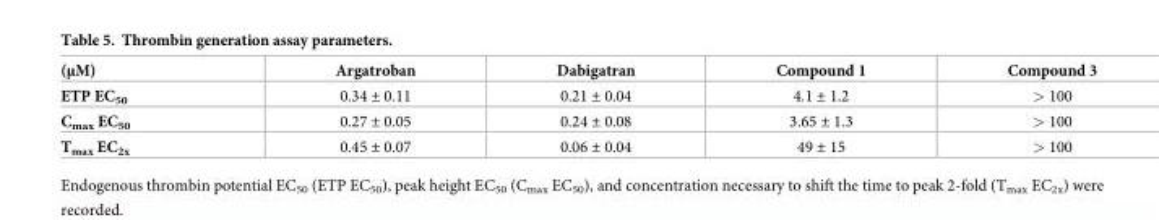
<table><thead><tr><td>(μM)</td><td>Argatroban</td><td>Dabigatran</td><td>Compound 1</td><td>Compound 3</td></tr></thead><tbody><tr><td>ETP EC<sub>50</sub></td><td>0.34 ± 0.11</td><td>0.21 ± 0.04</td><td>4.1 ± 1.2</td><td>&gt; 100</td></tr><tr><td>C<sub>max</sub> EC<sub>50</sub></td><td>0.27 ± 0.05</td><td>0.24 ± 0.08</td><td>3.65 ± 1.3</td><td>&gt; 100</td></tr><tr><td>T<sub>max</sub> EC<sub>2x</sub></td><td>0.45 ± 0.07</td><td>0.06 ± 0.04</td><td>49 ± 15</td><td>&gt; 100</td></tr></tbody></table>